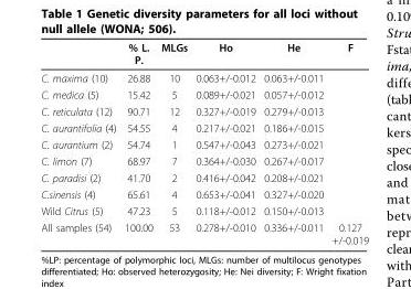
<table><thead><tr><td></td><td>% L. P.</td><td>MLGs</td><td>Ho</td><td>He</td><td>F</td></tr></thead><tbody><tr><td>C. maxima (10)</td><td>26.88</td><td>10</td><td>0.063+/-0.012</td><td>0.063+/-0.011</td><td></td></tr><tr><td>C. medica (5)</td><td>15.42</td><td>5</td><td>0.089+/-0.021</td><td>0.057+/-0.012</td><td></td></tr><tr><td>C. reticulata (12)</td><td>90.71</td><td>12</td><td>0.327+/-0.019</td><td>0.279+/-0.013</td><td></td></tr><tr><td>C. aurantifolia (4)</td><td>54.55</td><td>4</td><td>0.217+/-0.021</td><td>0.186+/-0.015</td><td></td></tr><tr><td>C. aurantium (2)</td><td>54.74</td><td>1</td><td>0.547+/-0.043</td><td>0.273+/-0.021</td><td></td></tr><tr><td>C. limon (7)</td><td>68.97</td><td>7</td><td>0.364+/-0.030</td><td>0.267+/-0.017</td><td></td></tr><tr><td>C. paradisi (2)</td><td>41.70</td><td>2</td><td>0.416+/-0.042</td><td>0.208+/-0.021</td><td></td></tr><tr><td>C.sinensis (4)</td><td>65.61</td><td>4</td><td>0.653+/-0.041</td><td>0.327+/-0.020</td><td></td></tr><tr><td>Wild Citrus (5)</td><td>47.23</td><td>5</td><td>0.118+/-0.012</td><td>0.150+/-0.013</td><td></td></tr><tr><td>All samples (54)</td><td>100.00</td><td>53</td><td>0.278+/-0.010</td><td>0.336+/-0.011</td><td>0.127 +/-0.019</td></tr></tbody></table>